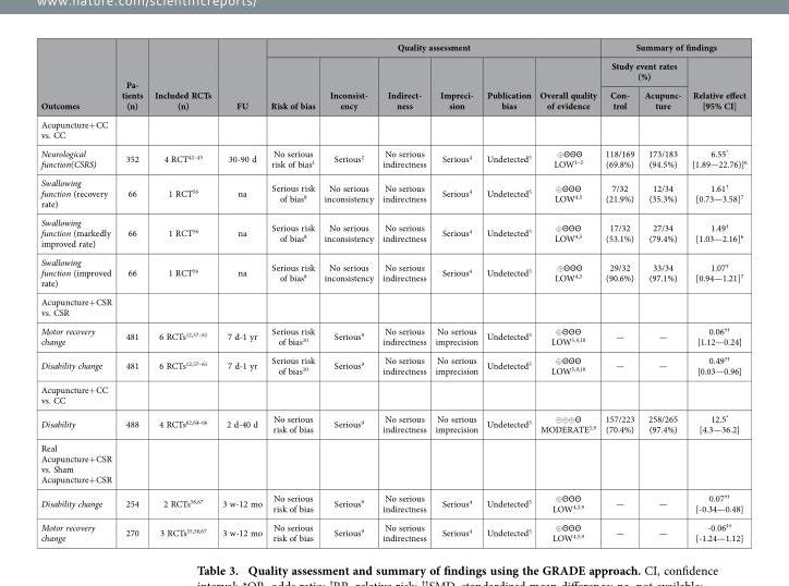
<table><thead><tr><td rowspan="3">Outcomes</td><td rowspan="3">Pa- tients (n)</td><td rowspan="3">Included RCTs (n)</td><td rowspan="3">FU</td><td colspan="6">Quality assessment</td><td colspan="3">Summary of findings</td></tr><tr><td rowspan="2">Risk of bias</td><td rowspan="2">Inconsist- ency</td><td rowspan="2">Indirect- ness</td><td rowspan="2">Impreci- sion</td><td rowspan="2">Publication bias</td><td rowspan="2">Overall quality of evidence</td><td colspan="2">Study event rates (%)</td><td rowspan="2">Relative effect [95% CI]</td></tr><tr><td>Con- trol</td><td>Acupunc- ture</td></tr></thead><tbody><tr><td colspan="13">Acupuncture+ CC vs. CC</td></tr><tr><td>Neurological function(CSRS)</td><td>352</td><td>4 RCT42–45</td><td>30-90 d</td><td>No serious risk of bias<sup>1</sup></td><td>Serious<sup>2</sup></td><td>No serious indirectness</td><td>Serious<sup>4</sup></td><td>Undetected<sup>5</sup></td><td>⊕ΘΘΘ LOW1–5</td><td>118/169 (69.8%)</td><td>173/183 (94.5%)</td><td>6.55* [1.89—22.76)]<sup>6</sup></td></tr><tr><td>Swallowing function (recovery rate)</td><td>66</td><td>1 RCT<sup>56</sup></td><td>na</td><td>Serious risk of bias<sup>8</sup></td><td>No serious inconsistency</td><td>No serious indirectness</td><td>Serious<sup>4</sup></td><td>Undetected<sup>5</sup></td><td>⊕ΘΘΘ LOW<sup>4,5</sup></td><td>7/32 (21.9%)</td><td>12/34 (35.3%)</td><td>1.61† [0.73—3.58]<sup>7</sup></td></tr><tr><td>Swallowing function (markedly improved rate)</td><td>66</td><td>1 RCT<sup>56</sup></td><td>na</td><td>Serious risk of bias<sup>8</sup></td><td>No serious inconsistency</td><td>No serious indirectness</td><td>Serious<sup>4</sup></td><td>Undetected<sup>5</sup></td><td>⊕ΘΘΘ LOW<sup>4,5</sup></td><td>17/32 (53.1%)</td><td>27/34 (79.4%)</td><td>1.49† [1.03—2.16]<sup>6</sup></td></tr><tr><td>Swallowing function (improved rate)</td><td>66</td><td>1 RCT<sup>56</sup></td><td>na</td><td>Serious risk of bias<sup>8</sup></td><td>No serious inconsistency</td><td>No serious indirectness</td><td>Serious<sup>4</sup></td><td>Undetected<sup>5</sup></td><td>⊕ΘΘΘ LOW<sup>4,5</sup></td><td>29/32 (90.6%)</td><td>33/34 (97.1%)</td><td>1.07† [0.94—1.21]<sup>7</sup></td></tr><tr><td colspan="13">Acupuncture+ CSR vs. CSR</td></tr><tr><td>Motor recovery change</td><td>481</td><td>6 RCTs12,57–61</td><td>7 d-1 yr</td><td>Serious risk of bias<sup>10</sup></td><td>Serious<sup>9</sup></td><td>No serious indirectness</td><td>No serious imprecision</td><td>Undetected<sup>5</sup></td><td>⊕ΘΘΘ LOW<sup>5,9,10</sup></td><td>—</td><td>—</td><td>0.06†† [1.12—0.24]</td></tr><tr><td>Disability change</td><td>481</td><td>6 RCTs12,57–61</td><td>7 d-1 yr</td><td>Serious risk of bias<sup>10</sup></td><td>Serious<sup>9</sup></td><td>No serious indirectness</td><td>No serious imprecision</td><td>Undetected<sup>5</sup></td><td>⊕ΘΘΘ LOW<sup>5,9,10</sup></td><td>—</td><td>—</td><td>0.49†† [0.03—0.96]</td></tr><tr><td colspan="13">Acupuncture+ CC vs. CC</td></tr><tr><td>Disability</td><td>488</td><td>4 RCTs62,64–66</td><td>2 d-40 d</td><td>No serious risk of bias</td><td>Serious<sup>9</sup></td><td>No serious indirectness</td><td>No serious imprecision</td><td>Undetected<sup>5</sup></td><td>⊕⊕⊕Θ MODERATE<sup>5,9</sup></td><td>157/223 (70.4%)</td><td>258/265 (97.4%)</td><td>12.5* [4.3—36.2]</td></tr><tr><td colspan="13">Real Acupuncture+ CSR vs. Sham Acupuncture+ CSR</td></tr><tr><td>Disability change</td><td>254</td><td>2 RCTs<sup>58</sup>,<sup>67</sup></td><td>3 w-12 mo</td><td>No serious risk of bias</td><td>Serious<sup>9</sup></td><td>No serious indirectness</td><td>Serious<sup>4</sup></td><td>Undetected<sup>5</sup></td><td>⊕ΘΘΘ LOW<sup>4,5,9</sup></td><td>—</td><td>—</td><td>0.07†† [-0.34—0.48]</td></tr><tr><td>Motor recovery change</td><td>270</td><td>3 RCTs<sup>55</sup>,<sup>58</sup>,<sup>67</sup></td><td>3 w-12 mo</td><td>No serious risk of bias</td><td>Serious<sup>9</sup></td><td>No serious indirectness</td><td>Serious<sup>4</sup></td><td>Undetected<sup>5</sup></td><td>⊕ΘΘΘ LOW<sup>4,5,9</sup></td><td>—</td><td>—</td><td>-0.06†† [-1.24—1.12]</td></tr></tbody></table>